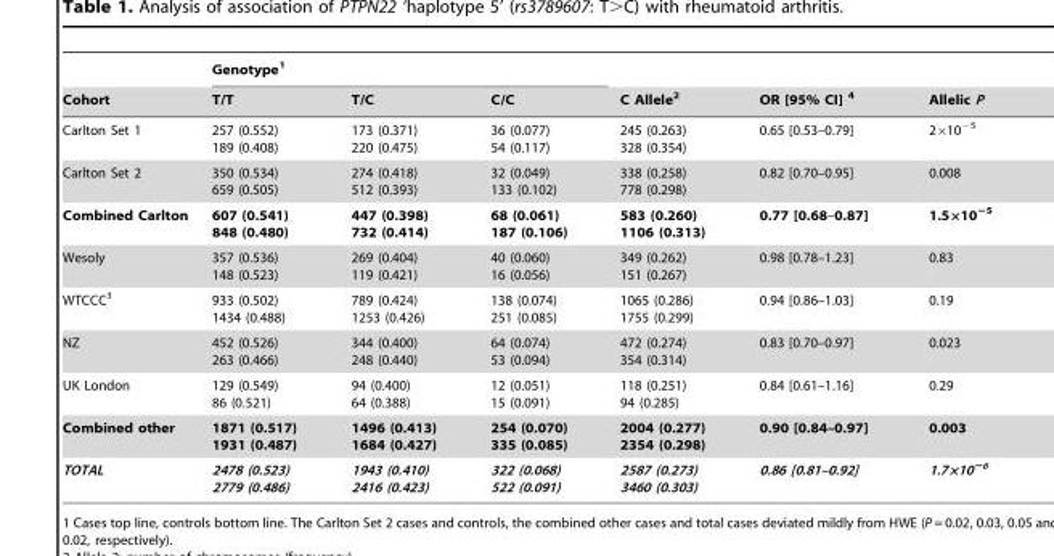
<table><thead><tr><td rowspan="2">Cohort</td><td colspan="3">Genotype<sup>1</sup></td><td rowspan="2">C Allele<sup>2</sup></td><td rowspan="2">OR [95% CI] <sup>4</sup></td><td rowspan="2">Allelic P</td></tr><tr><td>T/T</td><td>T/C</td><td>C/C</td></tr></thead><tbody><tr><td>Carlton Set 1</td><td>257 (0.552) 189 (0.408)</td><td>173 (0.371) 220 (0.475)</td><td>36 (0.077) 54 (0.117)</td><td>245 (0.263) 328 (0.354)</td><td>0.65 [0.53–0.79]</td><td>2×10<sup>−5</sup></td></tr><tr><td>Carlton Set 2</td><td>350 (0.534) 659 (0.505)</td><td>274 (0.418) 512 (0.393)</td><td>32 (0.049) 133 (0.102)</td><td>338 (0.258) 778 (0.298)</td><td>0.82 [0.70–0.95]</td><td>0.008</td></tr><tr><td>Combined Carlton</td><td>607 (0.541) 848 (0.480)</td><td>447 (0.398) 732 (0.414)</td><td>68 (0.061) 187 (0.106)</td><td>583 (0.260) 1106 (0.313)</td><td>0.77 [0.68–0.87]</td><td>1.5×10<sup>−5</sup></td></tr><tr><td>Wesoly</td><td>357 (0.536) 148 (0.523)</td><td>269 (0.404) 119 (0.421)</td><td>40 (0.060) 16 (0.056)</td><td>349 (0.262) 151 (0.267)</td><td>0.98 [0.78–1.23]</td><td>0.83</td></tr><tr><td>WTCCC<sup>3</sup></td><td>933 (0.502) 1434 (0.488)</td><td>789 (0.424) 1253 (0.426)</td><td>138 (0.074) 251 (0.085)</td><td>1065 (0.286) 1755 (0.299)</td><td>0.94 [0.86–1.03]</td><td>0.19</td></tr><tr><td>NZ</td><td>452 (0.526) 263 (0.466)</td><td>344 (0.400) 248 (0.440)</td><td>64 (0.074) 53 (0.094)</td><td>472 (0.274) 354 (0.314)</td><td>0.83 [0.70–0.97]</td><td>0.023</td></tr><tr><td>UK London</td><td>129 (0.549) 86 (0.521)</td><td>94 (0.400) 64 (0.388)</td><td>12 (0.051) 15 (0.091)</td><td>118 (0.251) 94 (0.285)</td><td>0.84 [0.61–1.16]</td><td>0.29</td></tr><tr><td>Combined other</td><td>1871 (0.517) 1931 (0.487)</td><td>1496 (0.413) 1684 (0.427)</td><td>254 (0.070) 335 (0.085)</td><td>2004 (0.277) 2354 (0.298)</td><td>0.90 [0.84–0.97]</td><td>0.003</td></tr><tr><td>TOTAL</td><td>2478 (0.523) 2779 (0.486)</td><td>1943 (0.410) 2416 (0.423)</td><td>322 (0.068) 522 (0.091)</td><td>2587 (0.273) 3460 (0.303)</td><td>0.86 [0.81–0.92]</td><td>1.7×10<sup>−6</sup></td></tr></tbody></table>